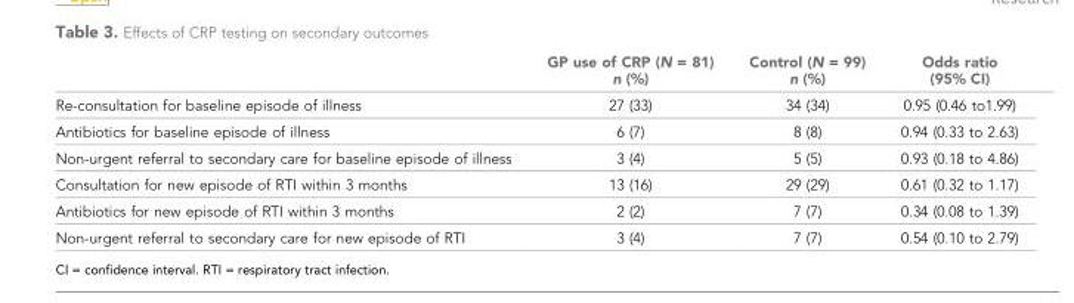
<table><thead><tr><td></td><td>GP use of CRP (N = 81) n (%)</td><td>Control (N = 99) n (%)</td><td>Odds ratio (95% CI)</td></tr></thead><tbody><tr><td>Re-consultation for baseline episode of illness</td><td>27 (33)</td><td>34 (34)</td><td>0.95 (0.46 to1.99)</td></tr><tr><td>Antibiotics for baseline episode of illness</td><td>6 (7)</td><td>8 (8)</td><td>0.94 (0.33 to 2.63)</td></tr><tr><td>Non-urgent referral to secondary care for baseline episode of illness</td><td>3 (4)</td><td>5 (5)</td><td>0.93 (0.18 to 4.86)</td></tr><tr><td>Consultation for new episode of RTI within 3 months</td><td>13 (16)</td><td>29 (29)</td><td>0.61 (0.32 to 1.17)</td></tr><tr><td>Antibiotics for new episode of RTI within 3 months</td><td>2 (2)</td><td>7 (7)</td><td>0.34 (0.08 to 1.39)</td></tr><tr><td>Non-urgent referral to secondary care for new episode of RTI</td><td>3 (4)</td><td>7 (7)</td><td>0.54 (0.10 to 2.79)</td></tr></tbody></table>